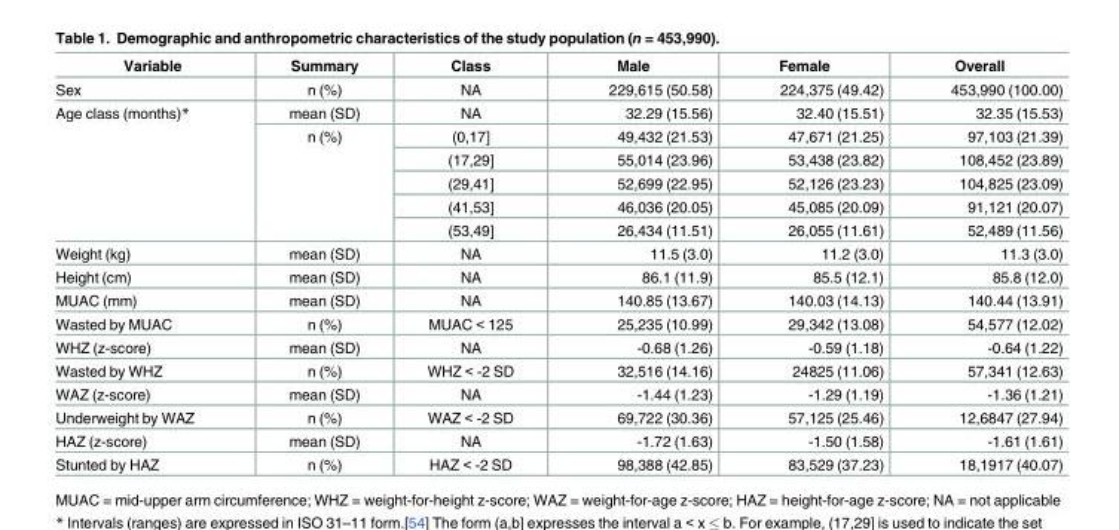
<table><thead><tr><td>Variable</td><td>Summary</td><td>Class</td><td>Male</td><td>Female</td><td>Overall</td></tr></thead><tbody><tr><td>Sex</td><td>n (%)</td><td>NA</td><td>229,615 (50.58)</td><td>224,375 (49.42)</td><td>453,990 (100.00)</td></tr><tr><td rowspan="6">Age class (months)*</td><td>mean (SD)</td><td>NA</td><td>32.29 (15.56)</td><td>32.40 (15.51)</td><td>32.35 (15.53)</td></tr><tr><td rowspan="5">n (%)</td><td>(0,17]</td><td>49,432 (21.53)</td><td>47,671 (21.25)</td><td>97,103 (21.39)</td></tr><tr><td>(17,29]</td><td>55,014 (23.96)</td><td>53,438 (23.82)</td><td>108,452 (23.89)</td></tr><tr><td>(29,41]</td><td>52,699 (22.95)</td><td>52,126 (23.23)</td><td>104,825 (23.09)</td></tr><tr><td>(41,53]</td><td>46,036 (20.05)</td><td>45,085 (20.09)</td><td>91,121 (20.07)</td></tr><tr><td>(53,49]</td><td>26,434 (11.51)</td><td>26,055 (11.61)</td><td>52,489 (11.56)</td></tr><tr><td>Weight (kg)</td><td>mean (SD)</td><td>NA</td><td>11.5 (3.0)</td><td>11.2 (3.0)</td><td>11.3 (3.0)</td></tr><tr><td>Height (cm)</td><td>mean (SD)</td><td>NA</td><td>86.1 (11.9)</td><td>85.5 (12.1)</td><td>85.8 (12.0)</td></tr><tr><td>MUAC (mm)</td><td>mean (SD)</td><td>NA</td><td>140.85 (13.67)</td><td>140.03 (14.13)</td><td>140.44 (13.91)</td></tr><tr><td>Wasted by MUAC</td><td>n (%)</td><td>MUAC &lt; 125</td><td>25,235 (10.99)</td><td>29,342 (13.08)</td><td>54,577 (12.02)</td></tr><tr><td>WHZ (z-score)</td><td>mean (SD)</td><td>NA</td><td>-0.68 (1.26)</td><td>-0.59 (1.18)</td><td>-0.64 (1.22)</td></tr><tr><td>Wasted by WHZ</td><td>n (%)</td><td>WHZ &lt; -2 SD</td><td>32,516 (14.16)</td><td>24825 (11.06)</td><td>57,341 (12.63)</td></tr><tr><td>WAZ (z-score)</td><td>mean (SD)</td><td>NA</td><td>-1.44 (1.23)</td><td>-1.29 (1.19)</td><td>-1.36 (1.21)</td></tr><tr><td>Underweight by WAZ</td><td>n (%)</td><td>WAZ &lt; -2 SD</td><td>69,722 (30.36)</td><td>57,125 (25.46)</td><td>12,6847 (27.94)</td></tr><tr><td>HAZ (z-score)</td><td>mean (SD)</td><td>NA</td><td>-1.72 (1.63)</td><td>-1.50 (1.58)</td><td>-1.61 (1.61)</td></tr><tr><td>Stunted by HAZ</td><td>n (%)</td><td>HAZ &lt; -2 SD</td><td>98,388 (42.85)</td><td>83,529 (37.23)</td><td>18,1917 (40.07)</td></tr></tbody></table>